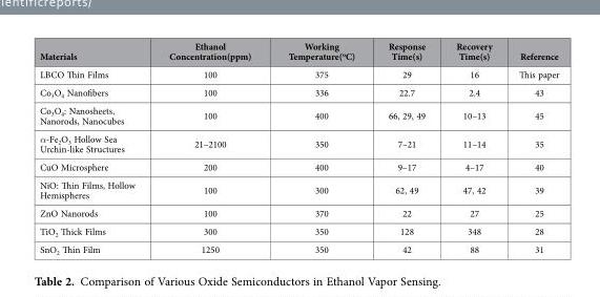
<table><thead><tr><td>Materials</td><td>Ethanol Concentration(ppm)</td><td>Working Temperature(<sup>o</sup>C)</td><td>Response Time(s)</td><td>Recovery Time(s)</td><td>Reference</td></tr></thead><tbody><tr><td>LBCO Thin Films</td><td>100</td><td>375</td><td>29</td><td>16</td><td>This paper</td></tr><tr><td>Co<sub>3</sub>O<sub>4</sub> Nanofibers</td><td>100</td><td>336</td><td>22.7</td><td>2.4</td><td>43</td></tr><tr><td>Co<sub>3</sub>O<sub>4</sub>: Nanosheets, Nanorods, Nanocubes</td><td>100</td><td>400</td><td>66, 29, 49</td><td>10–13</td><td>45</td></tr><tr><td>α-Fe<sub>2</sub>O<sub>3</sub> Hollow Sea Urchin-like Structures</td><td>21–2100</td><td>350</td><td>7–21</td><td>11–14</td><td>35</td></tr><tr><td>CuO Microsphere</td><td>200</td><td>400</td><td>9–17</td><td>4–17</td><td>40</td></tr><tr><td>NiO: Thin Films, Hollow Hemispheres</td><td>100</td><td>300</td><td>62, 49</td><td>47, 42</td><td>39</td></tr><tr><td>ZnO Nanorods</td><td>100</td><td>370</td><td>22</td><td>27</td><td>25</td></tr><tr><td>TiO<sub>2</sub> Thick Films</td><td>300</td><td>350</td><td>128</td><td>348</td><td>28</td></tr><tr><td>SnO<sub>2</sub> Thin Film</td><td>1250</td><td>350</td><td>42</td><td>88</td><td>31</td></tr></tbody></table>